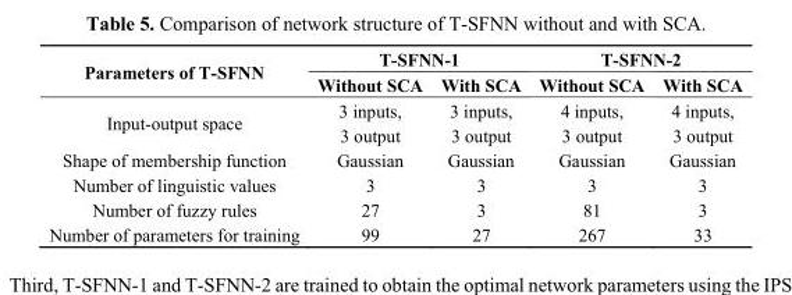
<table><thead><tr><td rowspan="2">Parameters of T-SFNN</td><td colspan="2">T-SFNN-1</td><td colspan="2">T-SFNN-2</td></tr><tr><td>Without SCA</td><td>With SCA</td><td>Without SCA</td><td>With SCA</td></tr></thead><tbody><tr><td>Input-output space</td><td>3 inputs, 3 output</td><td>3 inputs, 3 output</td><td>4 inputs, 3 output</td><td>4 inputs, 3 output</td></tr><tr><td>Shape of membership function</td><td>Gaussian</td><td>Gaussian</td><td>Gaussian</td><td>Gaussian</td></tr><tr><td>Number of linguistic values</td><td>3</td><td>3</td><td>3</td><td>3</td></tr><tr><td>Number of fuzzy rules</td><td>27</td><td>3</td><td>81</td><td>3</td></tr><tr><td>Number of parameters for training</td><td>99</td><td>27</td><td>267</td><td>33</td></tr></tbody></table>